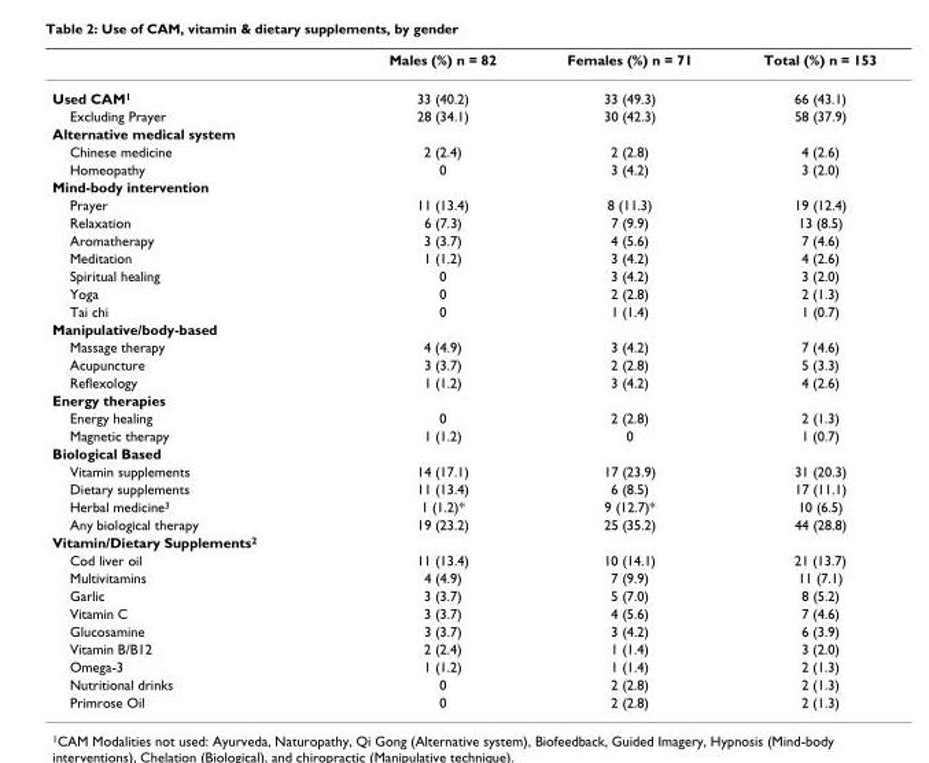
<table><thead><tr><td></td><td>Males (%) n = 82</td><td>Females (%) n = 71</td><td>Total (%) n = 153</td></tr></thead><tbody><tr><td>Used CAM<sup>1</sup></td><td>33 (40.2)</td><td>33 (49.3)</td><td>66 (43.1)</td></tr><tr><td>Excluding Prayer</td><td>28 (34.1)</td><td>30 (42.3)</td><td>58 (37.9)</td></tr><tr><td colspan="4">Alternative medical system</td></tr><tr><td>Chinese medicine</td><td>2 (2.4)</td><td>2 (2.8)</td><td>4 (2.6)</td></tr><tr><td>Homeopathy</td><td>0</td><td>3 (4.2)</td><td>3 (2.0)</td></tr><tr><td colspan="4">Mind-body intervention</td></tr><tr><td>Prayer</td><td>11 (13.4)</td><td>8 (11.3)</td><td>19 (12.4)</td></tr><tr><td>Relaxation</td><td>6 (7.3)</td><td>7 (9.9)</td><td>13 (8.5)</td></tr><tr><td>Aromatherapy</td><td>3 (3.7)</td><td>4 (5.6)</td><td>7 (4.6)</td></tr><tr><td>Meditation</td><td>1 (1.2)</td><td>3 (4.2)</td><td>4 (2.6)</td></tr><tr><td>Spiritual healing</td><td>0</td><td>3 (4.2)</td><td>3 (2.0)</td></tr><tr><td>Yoga</td><td>0</td><td>2 (2.8)</td><td>2 (1.3)</td></tr><tr><td>Tai chi</td><td>0</td><td>1 (1.4)</td><td>1 (0.7)</td></tr><tr><td colspan="4">Manipulative/body-based</td></tr><tr><td>Massage therapy</td><td>4 (4.9)</td><td>3 (4.2)</td><td>7 (4.6)</td></tr><tr><td>Acupuncture</td><td>3 (3.7)</td><td>2 (2.8)</td><td>5 (3.3)</td></tr><tr><td>Reflexology</td><td>1 (1.2)</td><td>3 (4.2)</td><td>4 (2.6)</td></tr><tr><td colspan="4">Energy therapies</td></tr><tr><td>Energy healing</td><td>0</td><td>2 (2.8)</td><td>2 (1.3)</td></tr><tr><td>Magnetic therapy</td><td>1 (1.2)</td><td>0</td><td>1 (0.7)</td></tr><tr><td colspan="4">Biological Based</td></tr><tr><td>Vitamin supplements</td><td>14 (17.1)</td><td>17 (23.9)</td><td>31 (20.3)</td></tr><tr><td>Dietary supplements</td><td>11 (13.4)</td><td>6 (8.5)</td><td>17 (11.1)</td></tr><tr><td>Herbal medicine<sup>3</sup></td><td>1 (1.2)*</td><td>9 (12.7)*</td><td>10 (6.5)</td></tr><tr><td>Any biological therapy</td><td>19 (23.2)</td><td>25 (35.2)</td><td>44 (28.8)</td></tr><tr><td colspan="4">Vitamin/Dietary Supplements<sup>2</sup></td></tr><tr><td>Cod liver oil</td><td>11 (13.4)</td><td>10 (14.1)</td><td>21 (13.7)</td></tr><tr><td>Multivitamins</td><td>4 (4.9)</td><td>7 (9.9)</td><td>11 (7.1)</td></tr><tr><td>Garlic</td><td>3 (3.7)</td><td>5 (7.0)</td><td>8 (5.2)</td></tr><tr><td>Vitamin C</td><td>3 (3.7)</td><td>4 (5.6)</td><td>7 (4.6)</td></tr><tr><td>Glucosamine</td><td>3 (3.7)</td><td>3 (4.2)</td><td>6 (3.9)</td></tr><tr><td>Vitamin B/B12</td><td>2 (2.4)</td><td>1 (1.4)</td><td>3 (2.0)</td></tr><tr><td>Omega-3</td><td>1 (1.2)</td><td>1 (1.4)</td><td>2 (1.3)</td></tr><tr><td>Nutritional drinks</td><td>0</td><td>2 (2.8)</td><td>2 (1.3)</td></tr><tr><td>Primrose Oil</td><td>0</td><td>2 (2.8)</td><td>2 (1.3)</td></tr></tbody></table>